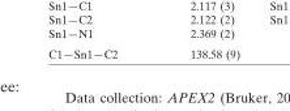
<table><tbody><tr><td>C1—Sn1—C2</td><td>138.58 (9)</td></tr></tbody></table>